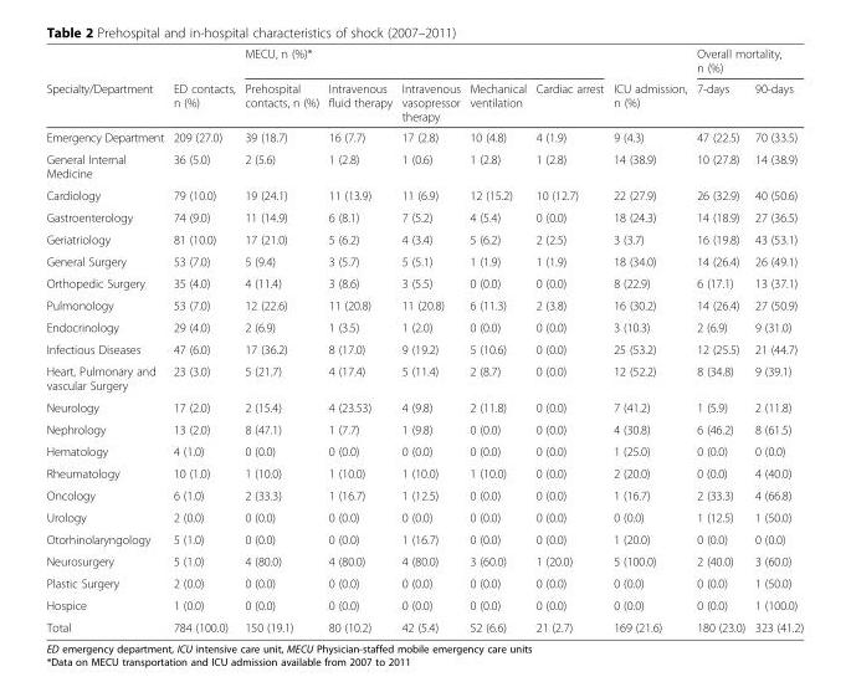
<table><thead><tr><td rowspan="2">Specialty/Department</td><td rowspan="2">ED contacts, n (%)</td><td colspan="5">MECU, n (%)*</td><td rowspan="2">ICU admission, n (%)</td><td colspan="2">Overall mortality, n (%)</td></tr><tr><td>Prehospital contacts, n (%)</td><td>Intravenous fluid therapy</td><td>Intravenous vasopressor therapy</td><td>Mechanical ventilation</td><td>Cardiac arrest</td><td>7-days</td><td>90-days</td></tr></thead><tbody><tr><td>Emergency Department</td><td>209 (27.0)</td><td>39 (18.7)</td><td>16 (7.7)</td><td>17 (2.8)</td><td>10 (4.8)</td><td>4 (1.9)</td><td>9 (4.3)</td><td>47 (22.5)</td><td>70 (33.5)</td></tr><tr><td>General Internal Medicine</td><td>36 (5.0)</td><td>2 (5.6)</td><td>1 (2.8)</td><td>1 (0.6)</td><td>1 (2.8)</td><td>1 (2.8)</td><td>14 (38.9)</td><td>10 (27.8)</td><td>14 (38.9)</td></tr><tr><td>Cardiology</td><td>79 (10.0)</td><td>19 (24.1)</td><td>11 (13.9)</td><td>11 (6.9)</td><td>12 (15.2)</td><td>10 (12.7)</td><td>22 (27.9)</td><td>26 (32.9)</td><td>40 (50.6)</td></tr><tr><td>Gastroenterology</td><td>74 (9.0)</td><td>11 (14.9)</td><td>6 (8.1)</td><td>7 (5.2)</td><td>4 (5.4)</td><td>0 (0.0)</td><td>18 (24.3)</td><td>14 (18.9)</td><td>27 (36.5)</td></tr><tr><td>Geriatriology</td><td>81 (10.0)</td><td>17 (21.0)</td><td>5 (6.2)</td><td>4 (3.4)</td><td>5 (6.2)</td><td>2 (2.5)</td><td>3 (3.7)</td><td>16 (19.8)</td><td>43 (53.1)</td></tr><tr><td>General Surgery</td><td>53 (7.0)</td><td>5 (9.4)</td><td>3 (5.7)</td><td>5 (5.1)</td><td>1 (1.9)</td><td>1 (1.9)</td><td>18 (34.0)</td><td>14 (26.4)</td><td>26 (49.1)</td></tr><tr><td>Orthopedic Surgery</td><td>35 (4.0)</td><td>4 (11.4)</td><td>3 (8.6)</td><td>3 (5.5)</td><td>0 (0.0)</td><td>0 (0.0)</td><td>8 (22.9)</td><td>6 (17.1)</td><td>13 (37.1)</td></tr><tr><td>Pulmonology</td><td>53 (7.0)</td><td>12 (22.6)</td><td>11 (20.8)</td><td>11 (20.8)</td><td>6 (11.3)</td><td>2 (3.8)</td><td>16 (30.2)</td><td>14 (26.4)</td><td>27 (50.9)</td></tr><tr><td>Endocrinology</td><td>29 (4.0)</td><td>2 (6.9)</td><td>1 (3.5)</td><td>1 (2.0)</td><td>0 (0.0)</td><td>0 (0.0)</td><td>3 (10.3)</td><td>2 (6.9)</td><td>9 (31.0)</td></tr><tr><td>Infectious Diseases</td><td>47 (6.0)</td><td>17 (36.2)</td><td>8 (17.0)</td><td>9 (19.2)</td><td>5 (10.6)</td><td>0 (0.0)</td><td>25 (53.2)</td><td>12 (25.5)</td><td>21 (44.7)</td></tr><tr><td>Heart, Pulmonary and vascular Surgery</td><td>23 (3.0)</td><td>5 (21.7)</td><td>4 (17.4)</td><td>5 (11.4)</td><td>2 (8.7)</td><td>0 (0.0)</td><td>12 (52.2)</td><td>8 (34.8)</td><td>9 (39.1)</td></tr><tr><td>Neurology</td><td>17 (2.0)</td><td>2 (15.4)</td><td>4 (23.53)</td><td>4 (9.8)</td><td>2 (11.8)</td><td>0 (0.0)</td><td>7 (41.2)</td><td>1 (5.9)</td><td>2 (11.8)</td></tr><tr><td>Nephrology</td><td>13 (2.0)</td><td>8 (47.1)</td><td>1 (7.7)</td><td>1 (9.8)</td><td>0 (0.0)</td><td>0 (0.0)</td><td>4 (30.8)</td><td>6 (46.2)</td><td>8 (61.5)</td></tr><tr><td>Hematology</td><td>4 (1.0)</td><td>0 (0.0)</td><td>0 (0.0)</td><td>0 (0.0)</td><td>0 (0.0)</td><td>0 (0.0)</td><td>1 (25.0)</td><td>0 (0.0)</td><td>0 (0.0)</td></tr><tr><td>Rheumatology</td><td>10 (1.0)</td><td>1 (10.0)</td><td>1 (10.0)</td><td>1 (10.0)</td><td>1 (10.0)</td><td>0 (0.0)</td><td>2 (20.0)</td><td>0 (0.0)</td><td>4 (40.0)</td></tr><tr><td>Oncology</td><td>6 (1.0)</td><td>2 (33.3)</td><td>1 (16.7)</td><td>1 (12.5)</td><td>0 (0.0)</td><td>0 (0.0)</td><td>1 (16.7)</td><td>2 (33.3)</td><td>4 (66.8)</td></tr><tr><td>Urology</td><td>2 (0.0)</td><td>0 (0.0)</td><td>0 (0.0)</td><td>0 (0.0)</td><td>0 (0.0)</td><td>0 (0.0)</td><td>0 (0.0)</td><td>1 (12.5)</td><td>1 (50.0)</td></tr><tr><td>Otorhinolaryngology</td><td>5 (1.0)</td><td>0 (0.0)</td><td>0 (0.0)</td><td>1 (16.7)</td><td>0 (0.0)</td><td>0 (0.0)</td><td>1 (20.0)</td><td>0 (0.0)</td><td>0 (0.0)</td></tr><tr><td>Neurosurgery</td><td>5 (1.0)</td><td>4 (80.0)</td><td>4 (80.0)</td><td>4 (80.0)</td><td>3 (60.0)</td><td>1 (20.0)</td><td>5 (100.0)</td><td>2 (40.0)</td><td>3 (60.0)</td></tr><tr><td>Plastic Surgery</td><td>2 (0.0)</td><td>0 (0.0)</td><td>0 (0.0)</td><td>0 (0.0)</td><td>0 (0.0)</td><td>0 (0.0)</td><td>0 (0.0)</td><td>0 (0.0)</td><td>1 (50.0)</td></tr><tr><td>Hospice</td><td>1 (0.0)</td><td>0 (0.0)</td><td>0 (0.0)</td><td>0 (0.0)</td><td>0 (0.0)</td><td>0 (0.0)</td><td>0 (0.0)</td><td>0 (0.0)</td><td>1 (100.0)</td></tr><tr><td>Total</td><td>784 (100.0)</td><td>150 (19.1)</td><td>80 (10.2)</td><td>42 (5.4)</td><td>52 (6.6)</td><td>21 (2.7)</td><td>169 (21.6)</td><td>180 (23.0)</td><td>323 (41.2)</td></tr></tbody></table>